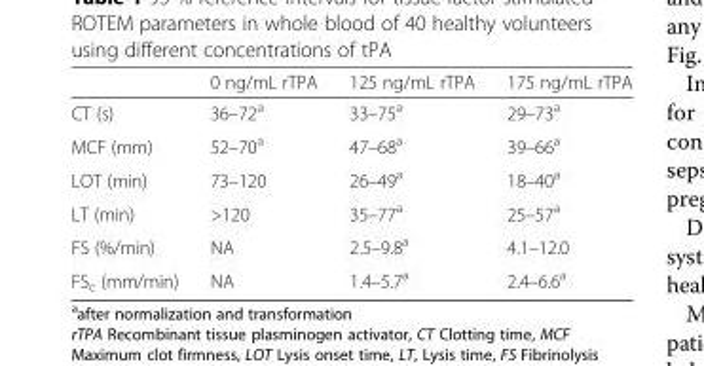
<table><thead><tr><td></td><td>0 ng/mL rTPA</td><td>125 ng/mL rTPA</td><td>175 ng/mL rTPA</td></tr></thead><tbody><tr><td>CT (s)</td><td>36–72<sup>a</sup></td><td>33–75<sup>a</sup></td><td>29–73<sup>a</sup></td></tr><tr><td>MCF (mm)</td><td>52–70<sup>a</sup></td><td>47–68<sup>a</sup></td><td>39–66<sup>a</sup></td></tr><tr><td>LOT (min)</td><td>73–120</td><td>26–49<sup>a</sup></td><td>18–40<sup>a</sup></td></tr><tr><td>LT (min)</td><td>&gt;120</td><td>35–77<sup>a</sup></td><td>25–57<sup>a</sup></td></tr><tr><td>FS (%/min)</td><td>NA</td><td>2.5–9.8<sup>a</sup></td><td>4.1–12.0</td></tr><tr><td>FS<sub>c</sub> (mm/min)</td><td>NA</td><td>1.4–5.7<sup>a</sup></td><td>2.4–6.6<sup>a</sup></td></tr></tbody></table>